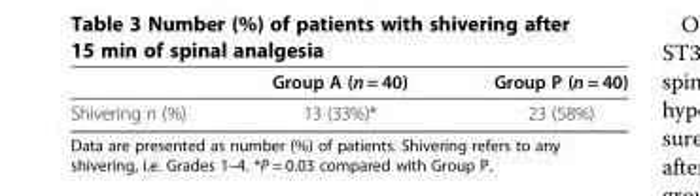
<table><thead><tr><td></td><td>Group A (n = 40)</td><td>Group P (n = 40)</td></tr></thead><tbody><tr><td>Shivering n (%)</td><td>13 (33%)*</td><td>23 (58%)</td></tr></tbody></table>